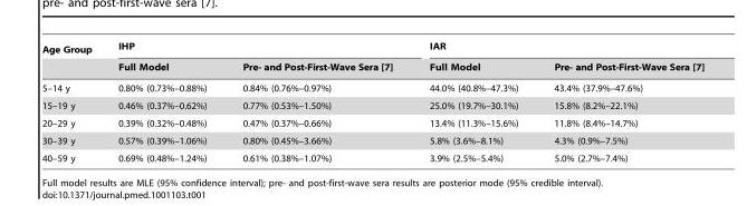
<table><thead><tr><td rowspan="2">Age Group</td><td colspan="2">IHP</td><td colspan="2">IAR</td></tr><tr><td>Full Model</td><td>Pre- and Post-First-Wave Sera [7]</td><td>Full Model</td><td>Pre- and Post-First-Wave Sera [7]</td></tr></thead><tbody><tr><td>5–14 y</td><td>0.80% (0.73%–0.88%)</td><td>0.84% (0.76%–0.97%)</td><td>44.0% (40.8%–47.3%)</td><td>43.4% (37.9%–47.6%)</td></tr><tr><td>15–19 y</td><td>0.46% (0.37%–0.62%)</td><td>0.77% (0.53%–1.50%)</td><td>25.0% (19.7%–30.1%)</td><td>15.8% (8.2%–22.1%)</td></tr><tr><td>20–29 y</td><td>0.39% (0.32%–0.48%)</td><td>0.47% (0.37%–0.66%)</td><td>13.4% (11.3%–15.6%)</td><td>11.8% (8.4%–14.7%)</td></tr><tr><td>30–39 y</td><td>0.57% (0.39%–1.06%)</td><td>0.80% (0.45%–3.66%)</td><td>5.8% (3.6%–8.1%)</td><td>4.3% (0.9%–7.5%)</td></tr><tr><td>40–59 y</td><td>0.69% (0.48%–1.24%)</td><td>0.61% (0.38%–1.07%)</td><td>3.9% (2.5%–5.4%)</td><td>5.0% (2.7%–7.4%)</td></tr></tbody></table>